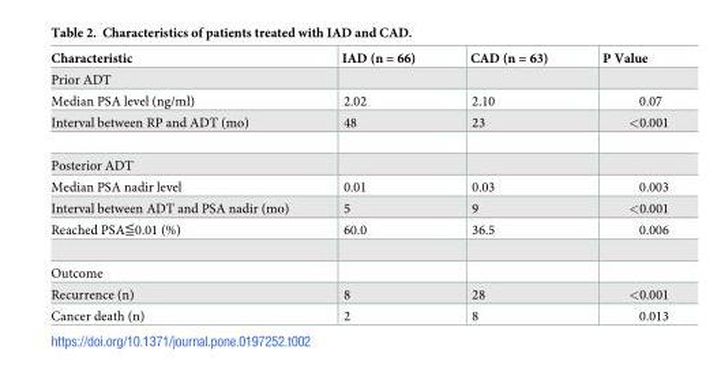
<table><thead><tr><td>Characteristic</td><td>IAD (n = 66)</td><td>CAD (n = 63)</td><td>P Value</td></tr></thead><tbody><tr><td colspan="4">Prior ADT</td></tr><tr><td>Median PSA level (ng/ml)</td><td>2.02</td><td>2.10</td><td>0.07</td></tr><tr><td>Interval between RP and ADT (mo)</td><td>48</td><td>23</td><td>&lt;0.001</td></tr><tr><td colspan="4">Posterior ADT</td></tr><tr><td>Median PSA nadir level</td><td>0.01</td><td>0.03</td><td>0.003</td></tr><tr><td>Interval between ADT and PSA nadir (mo)</td><td>5</td><td>9</td><td>&lt;0.001</td></tr><tr><td>Reached PSA≦0.01 (%)</td><td>60.0</td><td>36.5</td><td>0.006</td></tr><tr><td colspan="4">Outcome</td></tr><tr><td>Recurrence (n)</td><td>8</td><td>28</td><td>&lt;0.001</td></tr><tr><td>Cancer death (n)</td><td>2</td><td>8</td><td>0.013</td></tr></tbody></table>